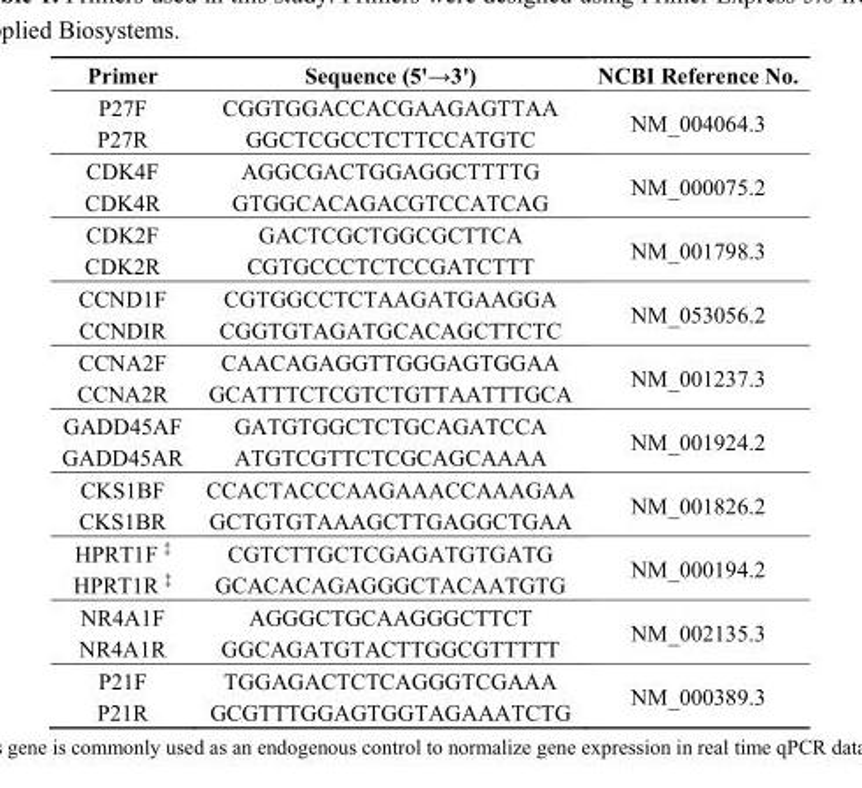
<table><thead><tr><td>Primer</td><td>Sequence (5ꞌ→3ꞌ)</td><td>NCBI Reference No.</td></tr></thead><tbody><tr><td>P27F P27R</td><td>CGGTGGACCACGAAGAGTTAA GGCTCGCCTCTTCCATGTC</td><td>NM_004064.3</td></tr><tr><td>CDK4F CDK4R</td><td>AGGCGACTGGAGGCTTTTG GTGGCACAGACGTCCATCAG</td><td>NM_000075.2</td></tr><tr><td>CDK2F CDK2R</td><td>GACTCGCTGGCGCTTCA CGTGCCCTCTCCGATCTTT</td><td>NM_001798.3</td></tr><tr><td>CCND1F CCNDIR</td><td>CGTGGCCTCTAAGATGAAGGA CGGTGTAGATGCACAGCTTCTC</td><td>NM_053056.2</td></tr><tr><td>CCNA2F CCNA2R</td><td>CAACAGAGGTTGGGAGTGGAA GCATTTCTCGTCTGTTAATTTGCA</td><td>NM_001237.3</td></tr><tr><td>GADD45AF GADD45AR</td><td>GATGTGGCTCTGCAGATCCA ATGTCGTTCTCGCAGCAAAA</td><td>NM_001924.2</td></tr><tr><td>CKS1BF CKS1BR</td><td>CCACTACCCAAGAAACCAAAGAA GCTGTGTAAAGCTTGAGGCTGAA</td><td>NM_001826.2</td></tr><tr><td>HPRT1F <sup>‡</sup> HPRT1R <sup>‡</sup></td><td>CGTCTTGCTCGAGATGTGATG GCACACAGAGGGCTACAATGTG</td><td>NM_000194.2</td></tr><tr><td>NR4A1F NR4A1R</td><td>AGGGCTGCAAGGGCTTCT GGCAGATGTACTTGGCGTTTTT</td><td>NM_002135.3</td></tr><tr><td>P21F P21R</td><td>TGGAGACTCTCAGGGTCGAAA GCGTTTGGAGTGGTAGAAATCTG</td><td>NM_000389.3</td></tr></tbody></table>